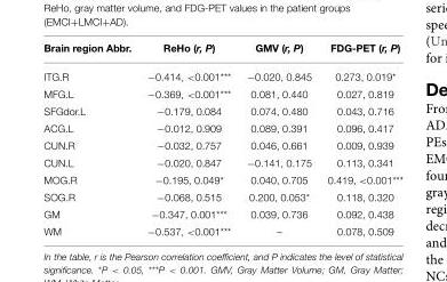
<table><thead><tr><td>Brain region Abbr.</td><td>ReHo (r, P)</td><td>GMV (r, P)</td><td>FDG-PET (r, P)</td></tr></thead><tbody><tr><td>ITG.R</td><td>−0.414, &lt;0.001***</td><td>−0.020, 0.845</td><td>0.273, 0.019*</td></tr><tr><td>MFG.L</td><td>−0.369, &lt;0.001***</td><td>0.081, 0.440</td><td>0.027, 0.819</td></tr><tr><td>SFGdor.L</td><td>−0.179, 0.084</td><td>0.074, 0.480</td><td>0.043, 0.716</td></tr><tr><td>ACG.L</td><td>−0.012, 0.909</td><td>0.089, 0.391</td><td>0.096, 0.417</td></tr><tr><td>CUN.R</td><td>−0.032, 0.757</td><td>0.046, 0.661</td><td>0.009, 0.939</td></tr><tr><td>CUN.L</td><td>−0.020, 0.847</td><td>−0.141, 0.175</td><td>0.113, 0.341</td></tr><tr><td>MOG.R</td><td>−0.195, 0.049*</td><td>0.040, 0.705</td><td>0.419, &lt;0.001***</td></tr><tr><td>SOG.R</td><td>−0.068, 0.515</td><td>0.200, 0.053*</td><td>0.118, 0.320</td></tr><tr><td>GM</td><td>−0.347, 0.001***</td><td>0.039, 0.736</td><td>0.092, 0.438</td></tr><tr><td>WM</td><td>−0.537, &lt;0.001***</td><td>–</td><td>0.078, 0.509</td></tr></tbody></table>